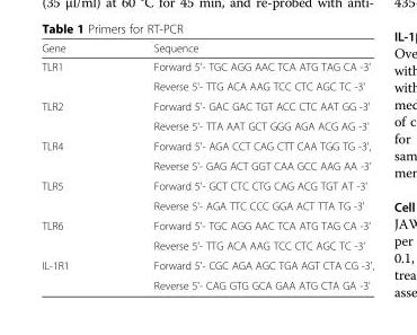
<table><thead><tr><td>Gene</td><td>Sequence</td></tr></thead><tbody><tr><td rowspan="2">TLR1</td><td>Forward 5&#x27;- TGC AGG AAC TCA ATG TAG CA -3&#x27;</td></tr><tr><td>Reverse 5&#x27;- TTG ACA AAG TCC CTC AGC TC -3&#x27;</td></tr><tr><td rowspan="2">TLR2</td><td>Forward 5&#x27;- GAC GAC TGT ACC CTC AAT GG -3&#x27;</td></tr><tr><td>Reverse 5&#x27;- TTA AAT GCT GGG AGA ACG AG -3&#x27;</td></tr><tr><td rowspan="2">TLR4</td><td>Forward 5&#x27;- AGA CCT CAG CTT CAA TGG TG -3&#x27;,</td></tr><tr><td>Reverse 5&#x27;- GAG ACT GGT CAA GCC AAG AA -3’</td></tr><tr><td rowspan="2">TLR5</td><td>Forward 5&#x27;- GCT CTC CTG CAG ACG TGT AT -3&#x27;</td></tr><tr><td>Reverse 5&#x27;- AGA TTC CCC GGA ACT TTA TG -3&#x27;</td></tr><tr><td rowspan="2">TLR6</td><td>Forward 5&#x27;- TGC AGG AAC TCA ATG TAG CA -3&#x27;</td></tr><tr><td>Reverse 5&#x27;- TTG ACA AAG TCC CTC AGC TC -3&#x27;</td></tr><tr><td rowspan="2">IL-1R1</td><td>Forward 5&#x27;- CGC AGA AGC TGA AGT CTA CG -3&#x27;,</td></tr><tr><td>Reverse 5&#x27;- CAG GTG GCA GAA ATG CTA GA -3&#x27;</td></tr></tbody></table>